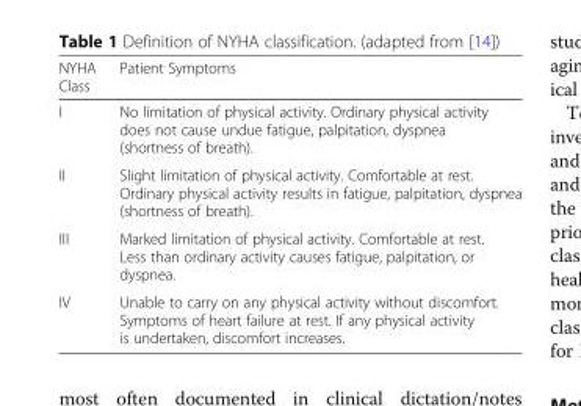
<table><thead><tr><td>NYHA Class</td><td>Patient Symptoms</td></tr></thead><tbody><tr><td>I</td><td>No limitation of physical activity. Ordinary physical activity does not cause undue fatigue, palpitation, dyspnea (shortness of breath).</td></tr><tr><td>II</td><td>Slight limitation of physical activity. Comfortable at rest. Ordinary physical activity results in fatigue, palpitation, dyspnea (shortness of breath).</td></tr><tr><td>III</td><td>Marked limitation of physical activity. Comfortable at rest. Less than ordinary activity causes fatigue, palpitation, or dyspnea.</td></tr><tr><td>IV</td><td>Unable to carry on any physical activity without discomfort. Symptoms of heart failure at rest. If any physical activity is undertaken, discomfort increases.</td></tr></tbody></table>